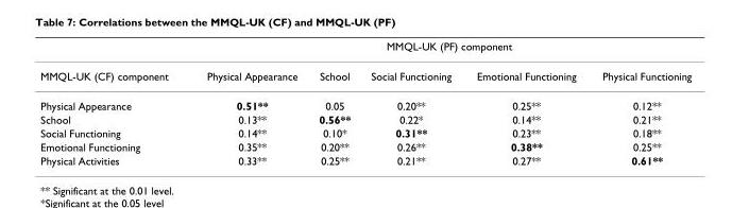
<table><thead><tr><td rowspan="2">MMQL-UK (CF) component</td><td colspan="5">MMQL-UK (PF) component</td></tr><tr><td>Physical Appearance</td><td>School</td><td>Social Functioning</td><td>Emotional Functioning</td><td>Physical Functioning</td></tr></thead><tbody><tr><td>Physical Appearance</td><td>0.51**</td><td>0.05</td><td>0.20**</td><td>0.25**</td><td>0.12**</td></tr><tr><td>School</td><td>0.13**</td><td>0.56**</td><td>0.22*</td><td>0.14**</td><td>0.21**</td></tr><tr><td>Social Functioning</td><td>0.14**</td><td>0.10*</td><td>0.31**</td><td>0.23**</td><td>0.18**</td></tr><tr><td>Emotional Functioning</td><td>0.35**</td><td>0.20**</td><td>0.26**</td><td>0.38**</td><td>0.25**</td></tr><tr><td>Physical Activities</td><td>0.33**</td><td>0.25**</td><td>0.21**</td><td>0.27**</td><td>0.61**</td></tr></tbody></table>